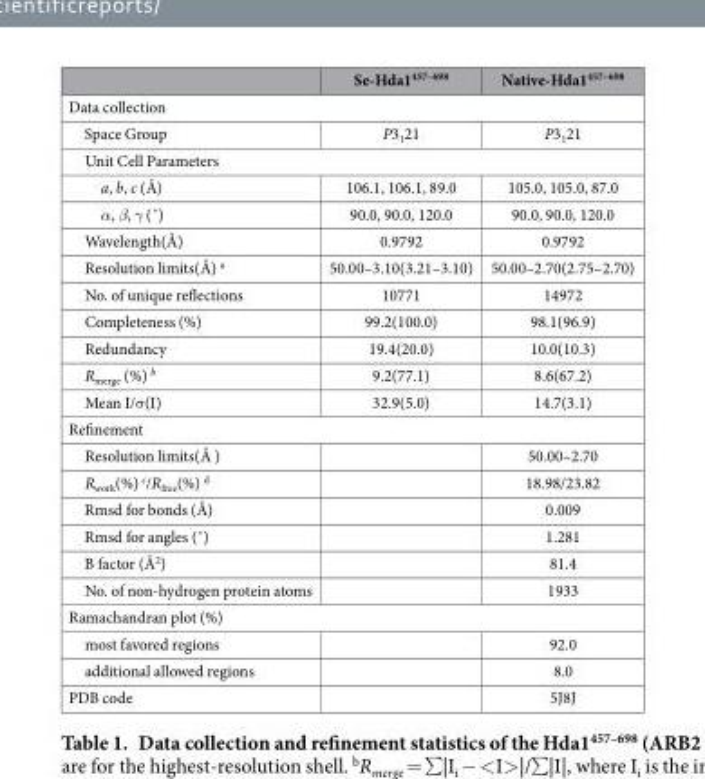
<table><thead><tr><td></td><td>Se-Hda1<sup>457–698</sup></td><td>Native-Hda1<sup>457–698</sup></td></tr></thead><tbody><tr><td colspan="3">Data collection</td></tr><tr><td>Space Group</td><td>P3<sub>1</sub>21</td><td>P3<sub>1</sub>21</td></tr><tr><td colspan="3">Unit Cell Parameters</td></tr><tr><td>a, b, c (Å)</td><td>106.1, 106.1, 89.0</td><td>105.0, 105.0, 87.0</td></tr><tr><td>α, β, γ (˚)</td><td>90.0, 90.0, 120.0</td><td>90.0, 90.0, 120.0</td></tr><tr><td>Wavelength(Å)</td><td>0.9792</td><td>0.9792</td></tr><tr><td>Resolution limits(Å) a</td><td>50.00–3.10(3.21–3.10)</td><td>50.00–2.70(2.75–2.70)</td></tr><tr><td>No. of unique reflections</td><td>10771</td><td>14972</td></tr><tr><td>Completeness (%)</td><td>99.2(100.0)</td><td>98.1(96.9)</td></tr><tr><td>Redundancy</td><td>19.4(20.0)</td><td>10.0(10.3)</td></tr><tr><td>R<sub>merge</sub> (%) b</td><td>9.2(77.1)</td><td>8.6(67.2)</td></tr><tr><td>Mean I/σ (I)</td><td>32.9(5.0)</td><td>14.7(3.1)</td></tr><tr><td colspan="3">Refinement</td></tr><tr><td>Resolution limits(Å )</td><td></td><td>50.00–2.70</td></tr><tr><td>R<sub>work</sub>(%) c/R<sub>free</sub>(%) d</td><td></td><td>18.98/23.82</td></tr><tr><td>Rmsd for bonds (Å)</td><td></td><td>0.009</td></tr><tr><td>Rmsd for angles (˚)</td><td></td><td>1.281</td></tr><tr><td>B factor (Å<sup>2</sup>)</td><td></td><td>81.4</td></tr><tr><td>No. of non-hydrogen protein atoms</td><td></td><td>1933</td></tr><tr><td colspan="3">Ramachandran plot (%)</td></tr><tr><td>most favored regions</td><td></td><td>92.0</td></tr><tr><td>additional allowed regions</td><td></td><td>8.0</td></tr><tr><td>PDB code</td><td></td><td>5J8J</td></tr></tbody></table>